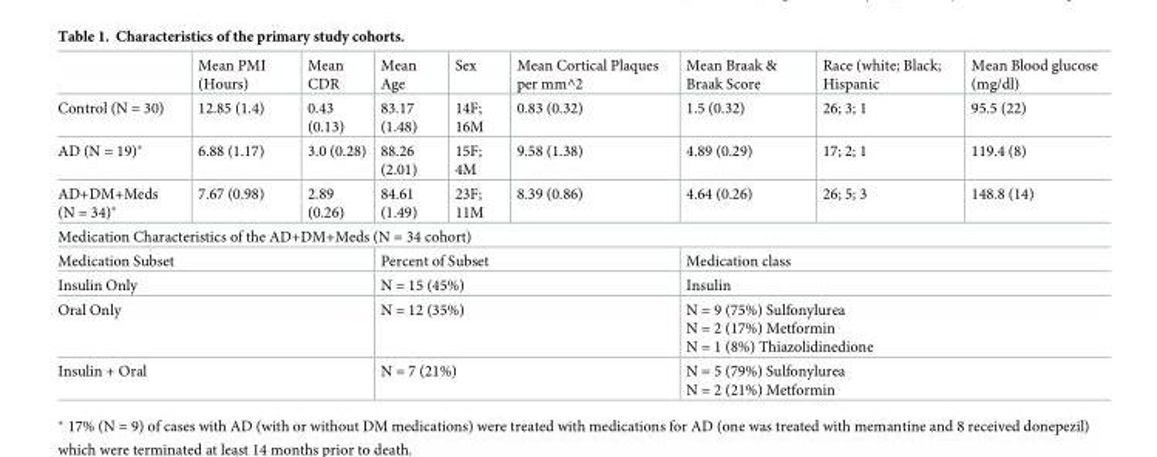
<table><thead><tr><td></td><td>Mean PMI (Hours)</td><td>Mean CDR</td><td>Mean Age</td><td>Sex</td><td>Mean Cortical Plaques per mm^2</td><td>Mean Braak &amp; Braak Score</td><td>Race (white; Black; Hispanic</td><td>Mean Blood glucose (mg/dl)</td></tr></thead><tbody><tr><td>Control (N = 30)</td><td>12.85 (1.4)</td><td>0.43 (0.13)</td><td>83.17 (1.48)</td><td>14F; 16M</td><td>0.83 (0.32)</td><td>1.5 (0.32)</td><td>26; 3; 1</td><td>95.5 (22)</td></tr><tr><td>AD (N = 19)*</td><td>6.88 (1.17)</td><td>3.0 (0.28)</td><td>88.26 (2.01)</td><td>15F; 4M</td><td>9.58 (1.38)</td><td>4.89 (0.29)</td><td>17; 2; 1</td><td>119.4 (8)</td></tr><tr><td>AD+DM+Meds (N = 34)*</td><td>7.67 (0.98)</td><td>2.89 (0.26)</td><td>84.61 (1.49)</td><td>23F; 11M</td><td>8.39 (0.86)</td><td>4.64 (0.26)</td><td>26; 5; 3</td><td>148.8 (14)</td></tr><tr><td colspan="9">Medication Characteristics of the AD+DM+Meds (N = 34 cohort)</td></tr><tr><td colspan="3">Medication Subset</td><td colspan="3">Percent of Subset</td><td colspan="3">Medication class</td></tr><tr><td colspan="3">Insulin Only</td><td colspan="3">N = 15 (45%)</td><td colspan="3">Insulin</td></tr><tr><td colspan="3">Oral Only</td><td colspan="3">N = 12 (35%)</td><td colspan="3">N = 9 (75%) Sulfonylurea N = 2 (17%) Metformin N = 1 (8%) Thiazolidinedione</td></tr><tr><td colspan="3">Insulin + Oral</td><td colspan="3">N = 7 (21%)</td><td colspan="3">N = 5 (79%) Sulfonylurea N = 2 (21%) Metformin</td></tr></tbody></table>